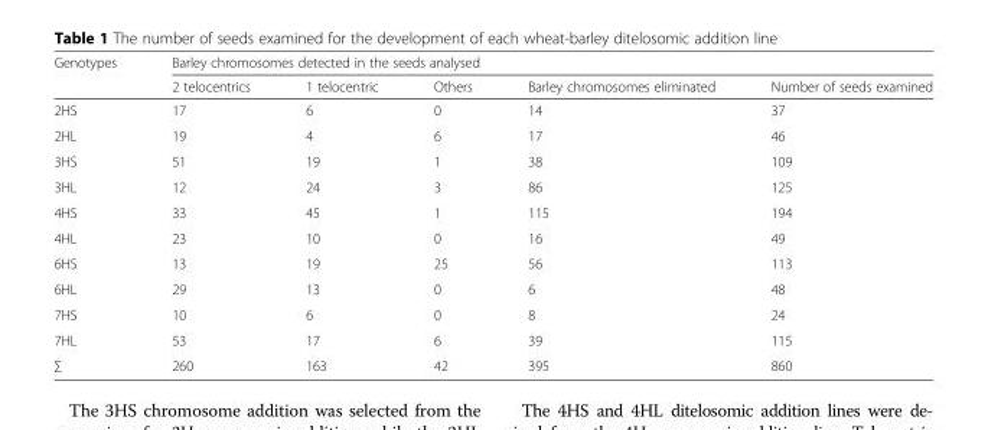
<table><thead><tr><td rowspan="2">Genotypes</td><td colspan="5">Barley chromosomes detected in the seeds analysed</td></tr><tr><td>2 telocentrics</td><td>1 telocentric</td><td>Others</td><td>Barley chromosomes eliminated</td><td>Number of seeds examined</td></tr></thead><tbody><tr><td>2HS</td><td>17</td><td>6</td><td>0</td><td>14</td><td>37</td></tr><tr><td>2HL</td><td>19</td><td>4</td><td>6</td><td>17</td><td>46</td></tr><tr><td>3HS</td><td>51</td><td>19</td><td>1</td><td>38</td><td>109</td></tr><tr><td>3HL</td><td>12</td><td>24</td><td>3</td><td>86</td><td>125</td></tr><tr><td>4HS</td><td>33</td><td>45</td><td>1</td><td>115</td><td>194</td></tr><tr><td>4HL</td><td>23</td><td>10</td><td>0</td><td>16</td><td>49</td></tr><tr><td>6HS</td><td>13</td><td>19</td><td>25</td><td>56</td><td>113</td></tr><tr><td>6HL</td><td>29</td><td>13</td><td>0</td><td>6</td><td>48</td></tr><tr><td>7HS</td><td>10</td><td>6</td><td>0</td><td>8</td><td>24</td></tr><tr><td>7HL</td><td>53</td><td>17</td><td>6</td><td>39</td><td>115</td></tr><tr><td>∑</td><td>260</td><td>163</td><td>42</td><td>395</td><td>860</td></tr></tbody></table>